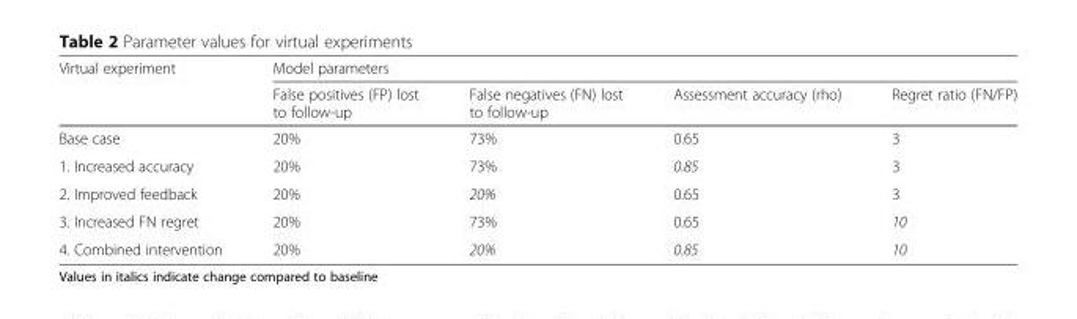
<table><thead><tr><td rowspan="2">Virtual experiment</td><td colspan="4">Model parameters</td></tr><tr><td>False positives (FP) lost to follow-up</td><td>False negatives (FN) lost to follow-up</td><td>Assessment accuracy (rho)</td><td>Regret ratio (FN/FP)</td></tr></thead><tbody><tr><td>Base case</td><td>20%</td><td>73%</td><td>0.65</td><td>3</td></tr><tr><td>1. Increased accuracy</td><td>20%</td><td>73%</td><td>0.85</td><td>3</td></tr><tr><td>2. Improved feedback</td><td>20%</td><td>20%</td><td>0.65</td><td>3</td></tr><tr><td>3. Increased FN regret</td><td>20%</td><td>73%</td><td>0.65</td><td>10</td></tr><tr><td>4. Combined intervention</td><td>20%</td><td>20%</td><td>0.85</td><td>10</td></tr></tbody></table>